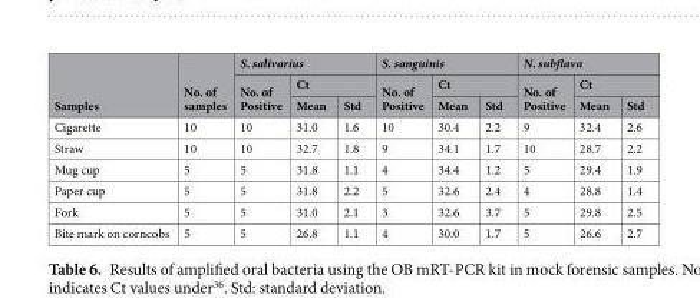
<table><thead><tr><td rowspan="3">Samples</td><td rowspan="3">No. of samples</td><td colspan="3">S. salivarius</td><td colspan="3">S. sanguinis</td><td colspan="3">N. subflava</td></tr><tr><td rowspan="2">No. of Positive</td><td colspan="2">Ct</td><td rowspan="2">No. of Positive</td><td colspan="2">Ct</td><td rowspan="2">No. of Positive</td><td colspan="2">Ct</td></tr><tr><td>Mean</td><td>Std</td><td>Mean</td><td>Std</td><td>Mean</td><td>Std</td></tr></thead><tbody><tr><td>Cigarette</td><td>10</td><td>10</td><td>31.0</td><td>1.6</td><td>10</td><td>30.4</td><td>2.2</td><td>9</td><td>32.4</td><td>2.6</td></tr><tr><td>Straw</td><td>10</td><td>10</td><td>32.7</td><td>1.8</td><td>9</td><td>34.1</td><td>1.7</td><td>10</td><td>28.7</td><td>2.2</td></tr><tr><td>Mug cup</td><td>5</td><td>5</td><td>31.8</td><td>1.1</td><td>4</td><td>34.4</td><td>1.2</td><td>5</td><td>29.4</td><td>1.9</td></tr><tr><td>Paper cup</td><td>5</td><td>5</td><td>31.8</td><td>2.2</td><td>5</td><td>32.6</td><td>2.4</td><td>4</td><td>28.8</td><td>1.4</td></tr><tr><td>Fork</td><td>5</td><td>5</td><td>31.0</td><td>2.1</td><td>3</td><td>32.6</td><td>3.7</td><td>5</td><td>29.8</td><td>2.5</td></tr><tr><td>Bite mark on corncobs</td><td>5</td><td>5</td><td>26.8</td><td>1.1</td><td>4</td><td>30.0</td><td>1.7</td><td>5</td><td>26.6</td><td>2.7</td></tr></tbody></table>